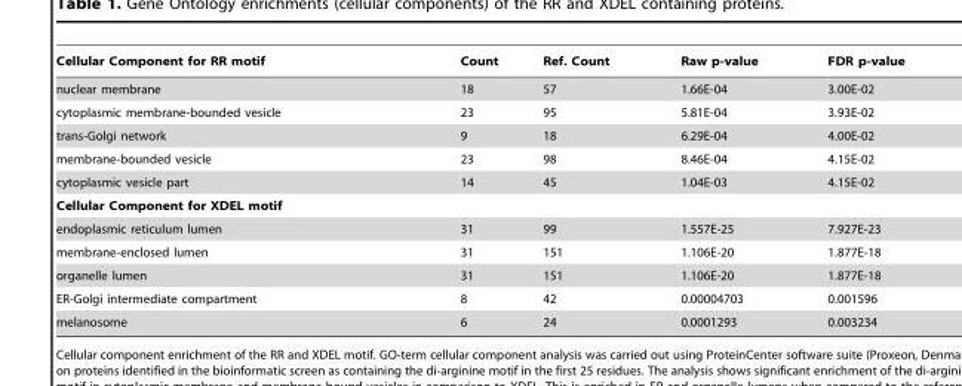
<table><thead><tr><td>Cellular Component for RR motif</td><td>Count</td><td>Ref. Count</td><td>Raw p-value</td><td>FDR p-value</td></tr></thead><tbody><tr><td>nuclear membrane</td><td>18</td><td>57</td><td>1.66E-04</td><td>3.00E-02</td></tr><tr><td>cytoplasmic membrane-bounded vesicle</td><td>23</td><td>95</td><td>5.81E-04</td><td>3.93E-02</td></tr><tr><td>trans-Golgi network</td><td>9</td><td>18</td><td>6.29E-04</td><td>4.00E-02</td></tr><tr><td>membrane-bounded vesicle</td><td>23</td><td>98</td><td>8.46E-04</td><td>4.15E-02</td></tr><tr><td>cytoplasmic vesicle part</td><td>14</td><td>45</td><td>1.04E-03</td><td>4.15E-02</td></tr><tr><td colspan="5">Cellular Component for XDEL motif</td></tr><tr><td>endoplasmic reticulum lumen</td><td>31</td><td>99</td><td>1.557E-25</td><td>7.927E-23</td></tr><tr><td>membrane-enclosed lumen</td><td>31</td><td>151</td><td>1.106E-20</td><td>1.877E-18</td></tr><tr><td>organelle lumen</td><td>31</td><td>151</td><td>1.106E-20</td><td>1.877E-18</td></tr><tr><td>ER-Golgi intermediate compartment</td><td>8</td><td>42</td><td>0.00004703</td><td>0.001596</td></tr><tr><td>melanosome</td><td>6</td><td>24</td><td>0.0001293</td><td>0.003234</td></tr></tbody></table>